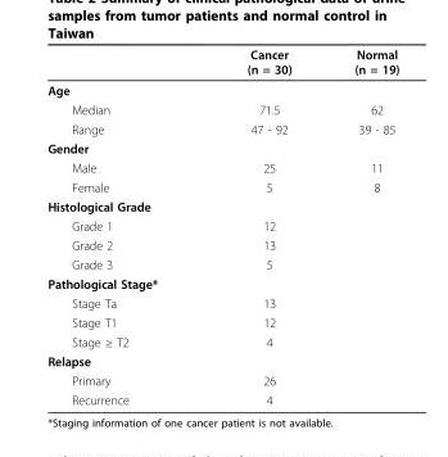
<table><thead><tr><td></td><td>Cancer (n = 30)</td><td>Normal (n = 19)</td></tr></thead><tbody><tr><td colspan="3">Age</td></tr><tr><td>Median</td><td>71.5</td><td>62</td></tr><tr><td>Range</td><td>47 - 92</td><td>39 - 85</td></tr><tr><td colspan="3">Gender</td></tr><tr><td>Male</td><td>25</td><td>11</td></tr><tr><td>Female</td><td>5</td><td>8</td></tr><tr><td colspan="3">Histological Grade</td></tr><tr><td>Grade 1</td><td>12</td><td></td></tr><tr><td>Grade 2</td><td>13</td><td></td></tr><tr><td>Grade 3</td><td>5</td><td></td></tr><tr><td colspan="3">Pathological Stage*</td></tr><tr><td>Stage Ta</td><td>13</td><td></td></tr><tr><td>Stage T1</td><td>12</td><td></td></tr><tr><td>Stage ≥ T2</td><td>4</td><td></td></tr><tr><td colspan="3">Relapse</td></tr><tr><td>Primary</td><td>26</td><td></td></tr><tr><td>Recurrence</td><td>4</td><td></td></tr></tbody></table>